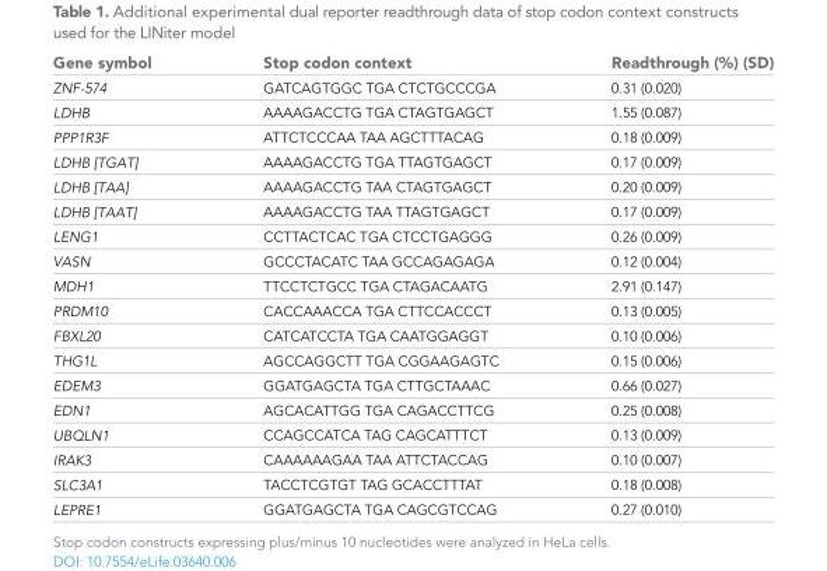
<table><thead><tr><td>Gene symbol</td><td>Stop codon context</td><td>Readthrough (%) (SD)</td></tr></thead><tbody><tr><td>ZNF-574</td><td>GATCAGTGGC TGA CTCTGCCCGA</td><td>0.31 (0.020)</td></tr><tr><td>LDHB</td><td>AAAAGACCTG TGA CTAGTGAGCT</td><td>1.55 (0.087)</td></tr><tr><td>PPP1R3F</td><td>ATTCTCCCAA TAA AGCTTTACAG</td><td>0.18 (0.009)</td></tr><tr><td>LDHB [TGAT]</td><td>AAAAGACCTG TGA TTAGTGAGCT</td><td>0.17 (0.009)</td></tr><tr><td>LDHB [TAA]</td><td>AAAAGACCTG TAA CTAGTGAGCT</td><td>0.20 (0.009)</td></tr><tr><td>LDHB [TAAT]</td><td>AAAAGACCTG TAA TTAGTGAGCT</td><td>0.17 (0.009)</td></tr><tr><td>LENG1</td><td>CCTTACTCAC TGA CTCCTGAGGG</td><td>0.26 (0.009)</td></tr><tr><td>VASN</td><td>GCCCTACATC TAA GCCAGAGAGA</td><td>0.12 (0.004)</td></tr><tr><td>MDH1</td><td>TTCCTCTGCC TGA CTAGACAATG</td><td>2.91 (0.147)</td></tr><tr><td>PRDM10</td><td>CACCAAACCA TGA CTTCCACCCT</td><td>0.13 (0.005)</td></tr><tr><td>FBXL20</td><td>CATCATCCTA TGA CAATGGAGGT</td><td>0.10 (0.006)</td></tr><tr><td>THG1L</td><td>AGCCAGGCTT TGA CGGAAGAGTC</td><td>0.15 (0.006)</td></tr><tr><td>EDEM3</td><td>GGATGAGCTA TGA CTTGCTAAAC</td><td>0.66 (0.027)</td></tr><tr><td>EDN1</td><td>AGCACATTGG TGA CAGACCTTCG</td><td>0.25 (0.008)</td></tr><tr><td>UBQLN1</td><td>CCAGCCATCA TAG CAGCATTTCT</td><td>0.13 (0.009)</td></tr><tr><td>IRAK3</td><td>CAAAAAAGAA TAA ATTCTACCAG</td><td>0.10 (0.007)</td></tr><tr><td>SLC3A1</td><td>TACCTCGTGT TAG GCACCTTTAT</td><td>0.18 (0.008)</td></tr><tr><td>LEPRE1</td><td>GGATGAGCTA TGA CAGCGTCCAG</td><td>0.27 (0.010)</td></tr></tbody></table>